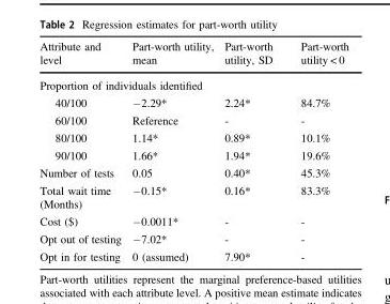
<table><thead><tr><td>Attribute and level</td><td>Part-worth utility, mean</td><td>Part-worth utility, SD</td><td>Part-worth utility &lt; 0</td></tr></thead><tbody><tr><td colspan="4">Proportion of individuals identified</td></tr><tr><td>40/100</td><td>−2.29*</td><td>2.24*</td><td>84.7%</td></tr><tr><td>60/100</td><td>Reference</td><td>-</td><td>-</td></tr><tr><td>80/100</td><td>1.14*</td><td>0.89*</td><td>10.1%</td></tr><tr><td>90/100</td><td>1.66*</td><td>1.94*</td><td>19.6%</td></tr><tr><td>Number of tests</td><td>0.05</td><td>0.40*</td><td>45.3%</td></tr><tr><td>Total wait time (Months)</td><td>−0.15*</td><td>0.16*</td><td>83.3%</td></tr><tr><td>Cost ($)</td><td>−0.0011*</td><td>-</td><td>-</td></tr><tr><td>Opt out of testing</td><td>−7.02*</td><td>-</td><td>-</td></tr><tr><td>Opt in for testing</td><td>0 (assumed)</td><td>7.90*</td><td>-</td></tr></tbody></table>